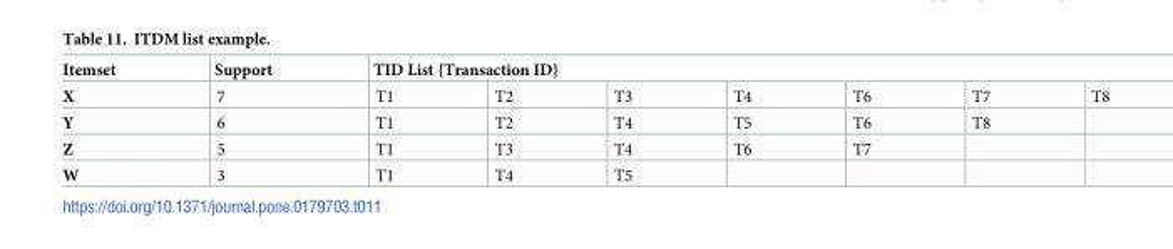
<table><thead><tr><td rowspan="2">Itemset X</td><td rowspan="2">Support 7</td><td colspan="7">TID List {Transaction ID}</td></tr><tr><td>T1</td><td>T2</td><td>T3</td><td>T4</td><td>T6</td><td>T7</td><td>T8</td></tr></thead><tbody><tr><td>Y</td><td>6</td><td>T1</td><td>T2</td><td>T4</td><td>T5</td><td>T6</td><td>T8</td><td></td></tr><tr><td>Z</td><td>5</td><td>T1</td><td>T3</td><td>T4</td><td>T6</td><td>T7</td><td></td><td></td></tr><tr><td>W</td><td>3</td><td>T1</td><td>T4</td><td>T5</td><td></td><td></td><td></td><td></td></tr></tbody></table>